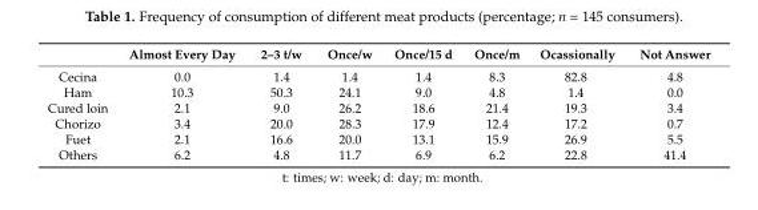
<table><thead><tr><td></td><td>Almost Every Day</td><td>2–3 t/w</td><td>Once/w</td><td>Once/15 d</td><td>Once/m</td><td>Ocassionally</td><td>Not Answer</td></tr></thead><tbody><tr><td>Cecina</td><td>0.0</td><td>1.4</td><td>1.4</td><td>1.4</td><td>8.3</td><td>82.8</td><td>4.8</td></tr><tr><td>Ham</td><td>10.3</td><td>50.3</td><td>24.1</td><td>9.0</td><td>4.8</td><td>1.4</td><td>0.0</td></tr><tr><td>Cured loin</td><td>2.1</td><td>9.0</td><td>26.2</td><td>18.6</td><td>21.4</td><td>19.3</td><td>3.4</td></tr><tr><td>Chorizo</td><td>3.4</td><td>20.0</td><td>28.3</td><td>17.9</td><td>12.4</td><td>17.2</td><td>0.7</td></tr><tr><td>Fuet</td><td>2.1</td><td>16.6</td><td>20.0</td><td>13.1</td><td>15.9</td><td>26.9</td><td>5.5</td></tr><tr><td>Others</td><td>6.2</td><td>4.8</td><td>11.7</td><td>6.9</td><td>6.2</td><td>22.8</td><td>41.4</td></tr></tbody></table>